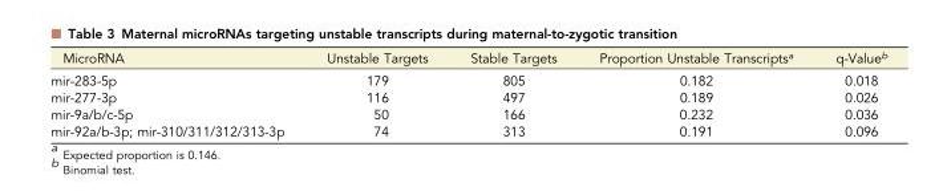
<table><thead><tr><td>MicroRNA</td><td>Unstable Targets</td><td>Stable Targets</td><td>Proportion Unstable Transcripts<sup>a</sup></td><td>q-Value<sup>b</sup></td></tr></thead><tbody><tr><td>mir-283-5p</td><td>179</td><td>805</td><td>0.182</td><td>0.018</td></tr><tr><td>mir-277-3p</td><td>116</td><td>497</td><td>0.189</td><td>0.026</td></tr><tr><td>mir-9a/b/c-5p</td><td>50</td><td>166</td><td>0.232</td><td>0.036</td></tr><tr><td>mir-92a/b-3p; mir-310/311/312/313-3p</td><td>74</td><td>313</td><td>0.191</td><td>0.096</td></tr></tbody></table>